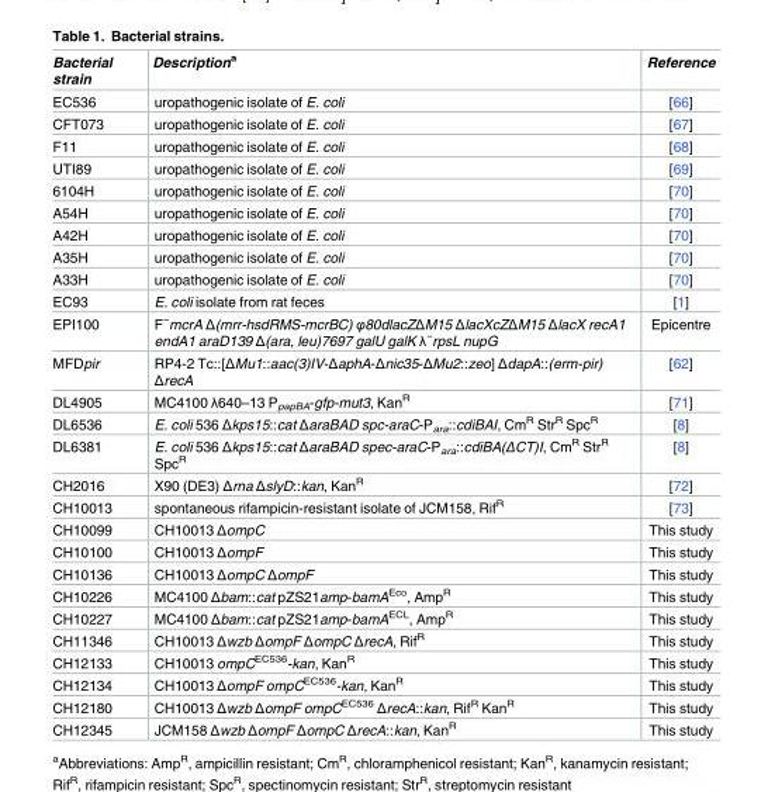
<table><thead><tr><td>Bacterial strain</td><td>Description<sup>a</sup></td><td>Reference</td></tr></thead><tbody><tr><td>EC536</td><td>uropathogenic isolate of E. coli</td><td>[66]</td></tr><tr><td>CFT073</td><td>uropathogenic isolate of E. coli</td><td>[67]</td></tr><tr><td>F11</td><td>uropathogenic isolate of E. coli</td><td>[68]</td></tr><tr><td>UTI89</td><td>uropathogenic isolate of E. coli</td><td>[69]</td></tr><tr><td>6104H</td><td>uropathogenic isolate of E. coli</td><td>[70]</td></tr><tr><td>A54H</td><td>uropathogenic isolate of E. coli</td><td>[70]</td></tr><tr><td>A42H</td><td>uropathogenic isolate of E. coli</td><td>[70]</td></tr><tr><td>A35H</td><td>uropathogenic isolate of E. coli</td><td>[70]</td></tr><tr><td>A33H</td><td>uropathogenic isolate of E. coli</td><td>[70]</td></tr><tr><td>EC93</td><td>E. coli isolate from rat feces</td><td>[1]</td></tr><tr><td>EPI100</td><td>F<sup>−</sup>mcrA Δ(mrr-hsdRMS-mcrBC) φ80dlacZΔM15 ΔlacXcZΔM15 ΔlacX recA1 endA1 araD139 Δ(ara, leu)7697 galU galK λ<sup>−</sup>rpsL nupG</td><td>Epicentre</td></tr><tr><td>MFDpir</td><td>RP4-2 Tc::[ΔMu1::aac(3)IV-ΔaphA-Δnic35-ΔMu2::zeo] ΔdapA::(erm-pir) ΔrecA</td><td>[62]</td></tr><tr><td>DL4905</td><td>MC4100 λ640–13 P<sub>papBA</sub>-gfp-mut3, Kan<sup>R</sup></td><td>[71]</td></tr><tr><td>DL6536</td><td>E. coli 536 Δkps15::cat ΔaraBAD spc-araC-P<sub>ara</sub>::cdiBAI, Cm<sup>R</sup> Str<sup>R</sup> Spc<sup>R</sup></td><td>[8]</td></tr><tr><td>DL6381</td><td>E. coli 536 Δkps15::cat ΔaraBAD spec-araC-P<sub>ara</sub>::cdiBA(ΔCT)I, Cm<sup>R</sup> Str<sup>R</sup> Spc<sup>R</sup></td><td>[8]</td></tr><tr><td>CH2016</td><td>X90 (DE3) Δrna ΔslyD::kan, Kan<sup>R</sup></td><td>[72]</td></tr><tr><td>CH10013</td><td>spontaneous rifampicin-resistant isolate of JCM158, Rif<sup>R</sup></td><td>[73]</td></tr><tr><td>CH10099</td><td>CH10013 ΔompC</td><td>This study</td></tr><tr><td>CH10100</td><td>CH10013 ΔompF</td><td>This study</td></tr><tr><td>CH10136</td><td>CH10013 ΔompC ΔompF</td><td>This study</td></tr><tr><td>CH10226</td><td>MC4100 Δbam::cat pZS21amp-bamA<sup>Eco</sup>, Amp<sup>R</sup></td><td>This study</td></tr><tr><td>CH10227</td><td>MC4100 Δbam::cat pZS21amp-bamA<sup>ECL</sup>, Amp<sup>R</sup></td><td>This study</td></tr><tr><td>CH11346</td><td>CH10013 Δwzb ΔompF ΔompC ΔrecA, Rif<sup>R</sup></td><td>This study</td></tr><tr><td>CH12133</td><td>CH10013 ompC<sup>EC536</sup>-kan, Kan<sup>R</sup></td><td>This study</td></tr><tr><td>CH12134</td><td>CH10013 ΔompF ompC<sup>EC536</sup>-kan, Kan<sup>R</sup></td><td>This study</td></tr><tr><td>CH12180</td><td>CH10013 Δwzb ΔompF ompC<sup>EC536</sup> ΔrecA::kan, Rif<sup>R</sup> Kan<sup>R</sup></td><td>This study</td></tr><tr><td>CH12345</td><td>JCM158 Δwzb ΔompF ΔompC ΔrecA::kan, Kan<sup>R</sup></td><td>This study</td></tr></tbody></table>